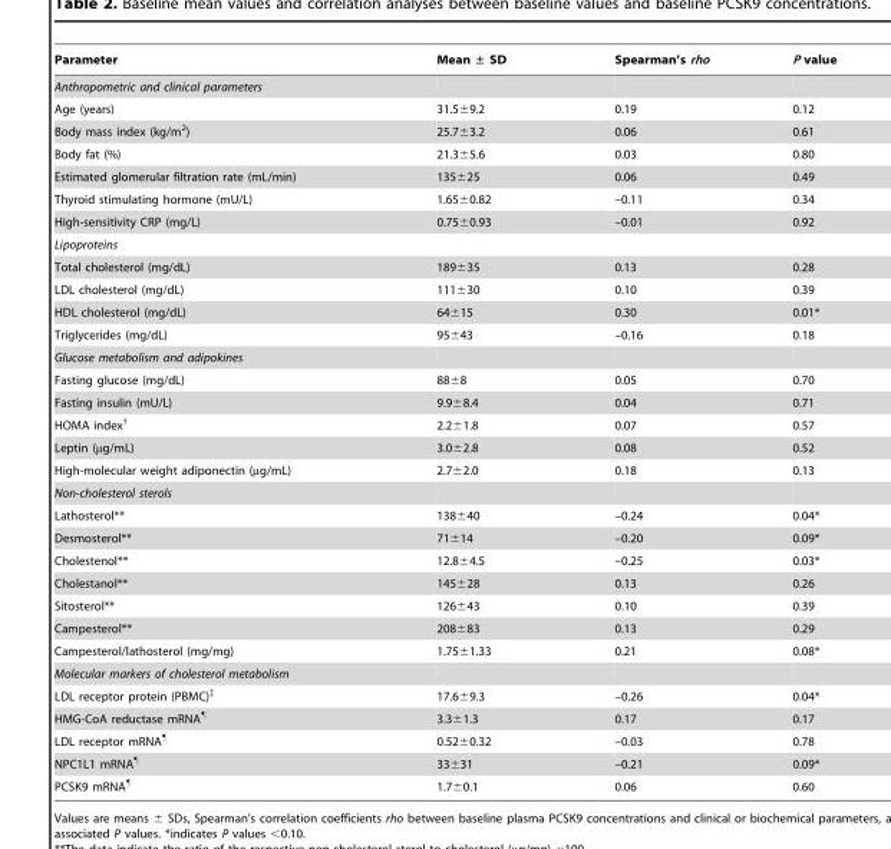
<table><thead><tr><td>Parameter</td><td>Mean ± SD</td><td>Spearman’s rho</td><td>P value</td></tr></thead><tbody><tr><td colspan="4">Anthropometric and clinical parameters</td></tr><tr><td>Age (years)</td><td>31.5±9.2</td><td>0.19</td><td>0.12</td></tr><tr><td>Body mass index (kg/m<sup>2</sup>)</td><td>25.7±3.2</td><td>0.06</td><td>0.61</td></tr><tr><td>Body fat (%)</td><td>21.3±5.6</td><td>0.03</td><td>0.80</td></tr><tr><td>Estimated glomerular filtration rate (mL/min)</td><td>135±25</td><td>0.06</td><td>0.49</td></tr><tr><td>Thyroid stimulating hormone (mU/L)</td><td>1.65±0.82</td><td>–0.11</td><td>0.34</td></tr><tr><td>High-sensitivity CRP (mg/L)</td><td>0.75±0.93</td><td>–0.01</td><td>0.92</td></tr><tr><td colspan="4">Lipoproteins</td></tr><tr><td>Total cholesterol (mg/dL)</td><td>189±35</td><td>0.13</td><td>0.28</td></tr><tr><td>LDL cholesterol (mg/dL)</td><td>111±30</td><td>0.10</td><td>0.39</td></tr><tr><td>HDL cholesterol (mg/dL)</td><td>64±15</td><td>0.30</td><td>0.01*</td></tr><tr><td>Triglycerides (mg/dL)</td><td>95±43</td><td>–0.16</td><td>0.18</td></tr><tr><td colspan="4">Glucose metabolism and adipokines</td></tr><tr><td>Fasting glucose (mg/dL)</td><td>88±8</td><td>0.05</td><td>0.70</td></tr><tr><td>Fasting insulin (mU/L)</td><td>9.9±8.4</td><td>0.04</td><td>0.71</td></tr><tr><td>HOMA index†</td><td>2.2±1.8</td><td>0.07</td><td>0.57</td></tr><tr><td>Leptin (µg/mL)</td><td>3.0±2.8</td><td>0.08</td><td>0.52</td></tr><tr><td>High-molecular weight adiponectin (µg/mL)</td><td>2.7±2.0</td><td>0.18</td><td>0.13</td></tr><tr><td colspan="4">Non-cholesterol sterols</td></tr><tr><td>Lathosterol**</td><td>138±40</td><td>–0.24</td><td>0.04*</td></tr><tr><td>Desmosterol**</td><td>71±14</td><td>–0.20</td><td>0.09*</td></tr><tr><td>Cholestenol**</td><td>12.8±4.5</td><td>–0.25</td><td>0.03*</td></tr><tr><td>Cholestanol**</td><td>145±28</td><td>0.13</td><td>0.26</td></tr><tr><td>Sitosterol**</td><td>126±43</td><td>0.10</td><td>0.39</td></tr><tr><td>Campesterol**</td><td>208±83</td><td>0.13</td><td>0.29</td></tr><tr><td>Campesterol/lathosterol (mg/mg)</td><td>1.75±1.33</td><td>0.21</td><td>0.08*</td></tr><tr><td colspan="4">Molecular markers of cholesterol metabolism</td></tr><tr><td>LDL receptor protein (PBMC)‡</td><td>17.6±9.3</td><td>–0.26</td><td>0.04*</td></tr><tr><td>HMG-CoA reductase mRNA¶</td><td>3.3±1.3</td><td>0.17</td><td>0.17</td></tr><tr><td>LDL receptor mRNA¶</td><td>0.52±0.32</td><td>–0.03</td><td>0.78</td></tr><tr><td>NPC1L1 mRNA¶</td><td>33±31</td><td>–0.21</td><td>0.09*</td></tr><tr><td>PCSK9 mRNA¶</td><td>1.7±0.1</td><td>0.06</td><td>0.60</td></tr></tbody></table>